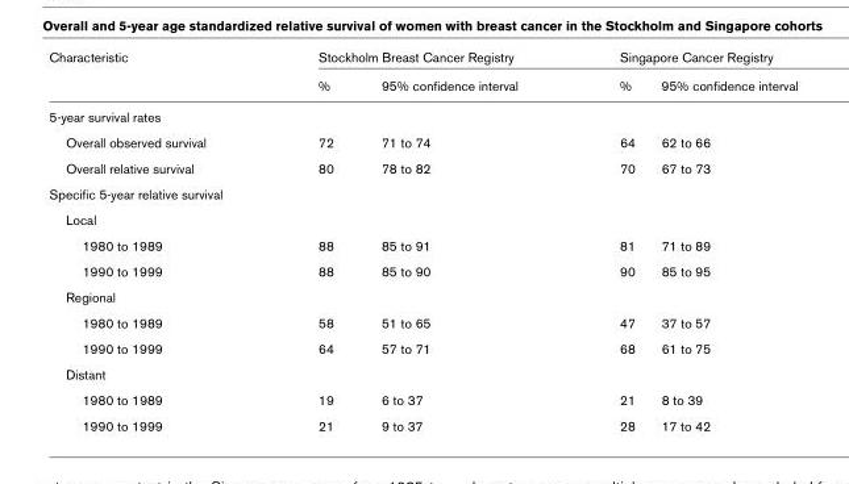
<table><thead><tr><td rowspan="2">Characteristic</td><td colspan="2">Stockholm Breast Cancer Registry</td><td colspan="2">Singapore Cancer Registry</td></tr><tr><td>%</td><td>95% confidence interval</td><td>%</td><td>95% confidence interval</td></tr></thead><tbody><tr><td colspan="5">5-year survival rates</td></tr><tr><td>Overall observed survival</td><td>72</td><td>71 to 74</td><td>64</td><td>62 to 66</td></tr><tr><td>Overall relative survival</td><td>80</td><td>78 to 82</td><td>70</td><td>67 to 73</td></tr><tr><td colspan="5">Specific 5-year relative survival</td></tr><tr><td colspan="5">Local</td></tr><tr><td>1980 to 1989</td><td>88</td><td>85 to 91</td><td>81</td><td>71 to 89</td></tr><tr><td>1990 to 1999</td><td>88</td><td>85 to 90</td><td>90</td><td>85 to 95</td></tr><tr><td colspan="5">Regional</td></tr><tr><td>1980 to 1989</td><td>58</td><td>51 to 65</td><td>47</td><td>37 to 57</td></tr><tr><td>1990 to 1999</td><td>64</td><td>57 to 71</td><td>68</td><td>61 to 75</td></tr><tr><td colspan="5">Distant</td></tr><tr><td>1980 to 1989</td><td>19</td><td>6 to 37</td><td>21</td><td>8 to 39</td></tr><tr><td>1990 to 1999</td><td>21</td><td>9 to 37</td><td>28</td><td>17 to 42</td></tr></tbody></table>